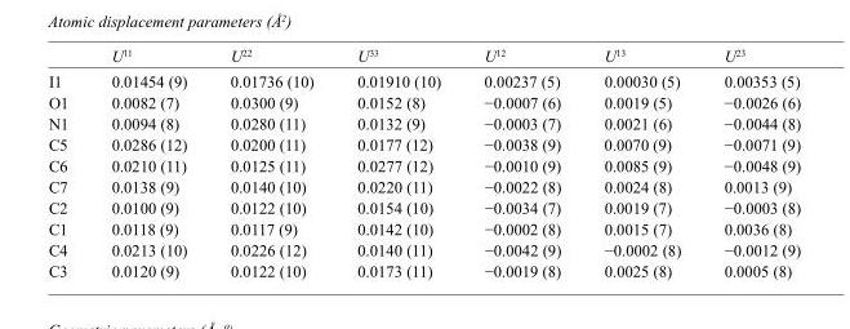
<table><thead><tr><td></td><td>U<sup>11</sup></td><td>U<sup>22</sup></td><td>U<sup>33</sup></td><td>U<sup>12</sup></td><td>U<sup>13</sup></td><td>U<sup>23</sup></td></tr></thead><tbody><tr><td>I1</td><td>0.01454 (9)</td><td>0.01736 (10)</td><td>0.01910 (10)</td><td>0.00237 (5)</td><td>0.00030 (5)</td><td>0.00353 (5)</td></tr><tr><td>O1</td><td>0.0082 (7)</td><td>0.0300 (9)</td><td>0.0152 (8)</td><td>−0.0007 (6)</td><td>0.0019 (5)</td><td>−0.0026 (6)</td></tr><tr><td>N1</td><td>0.0094 (8)</td><td>0.0280 (11)</td><td>0.0132 (9)</td><td>−0.0003 (7)</td><td>0.0021 (6)</td><td>−0.0044 (8)</td></tr><tr><td>C5</td><td>0.0286 (12)</td><td>0.0200 (11)</td><td>0.0177 (12)</td><td>−0.0038 (9)</td><td>0.0070 (9)</td><td>−0.0071 (9)</td></tr><tr><td>C6</td><td>0.0210 (11)</td><td>0.0125 (11)</td><td>0.0277 (12)</td><td>−0.0010 (9)</td><td>0.0085 (9)</td><td>−0.0048 (9)</td></tr><tr><td>C7</td><td>0.0138 (9)</td><td>0.0140 (10)</td><td>0.0220 (11)</td><td>−0.0022 (8)</td><td>0.0024 (8)</td><td>0.0013 (9)</td></tr><tr><td>C2</td><td>0.0100 (9)</td><td>0.0122 (10)</td><td>0.0154 (10)</td><td>−0.0034 (7)</td><td>0.0019 (7)</td><td>−0.0003 (8)</td></tr><tr><td>C1</td><td>0.0118 (9)</td><td>0.0117 (9)</td><td>0.0142 (10)</td><td>−0.0002 (8)</td><td>0.0015 (7)</td><td>0.0036 (8)</td></tr><tr><td>C4</td><td>0.0213 (10)</td><td>0.0226 (12)</td><td>0.0140 (11)</td><td>−0.0042 (9)</td><td>−0.0002 (8)</td><td>−0.0012 (9)</td></tr><tr><td>C3</td><td>0.0120 (9)</td><td>0.0122 (10)</td><td>0.0173 (11)</td><td>−0.0019 (8)</td><td>0.0025 (8)</td><td>0.0005 (8)</td></tr></tbody></table>